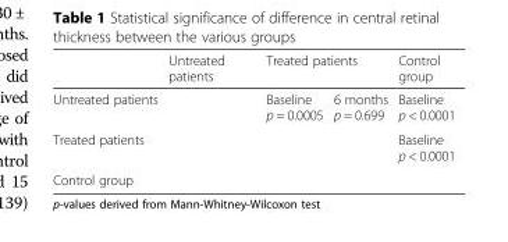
<table><thead><tr><td rowspan="2">Untreated patients</td><td rowspan="2">Untreated patients</td><td colspan="2">Treated patients</td><td rowspan="2">Control group Baseline p &lt; 0.0001</td></tr><tr><td>Baseline p = 0.0005</td><td>6 months p = 0.699</td></tr></thead><tbody><tr><td>Treated patients</td><td></td><td colspan="2"></td><td>Baseline p &lt; 0.0001</td></tr><tr><td>Control group</td><td></td><td colspan="2"></td><td></td></tr></tbody></table>